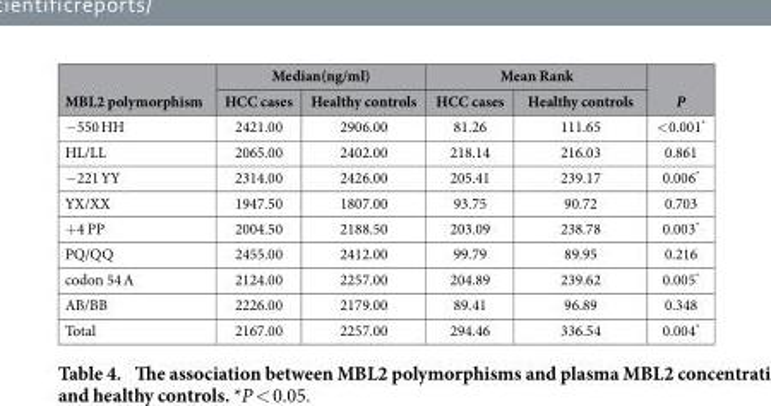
<table><thead><tr><td rowspan="2">MBL2 polymorphism</td><td colspan="2">Median(ng/ml)</td><td colspan="2">Mean Rank</td><td rowspan="2">P</td></tr><tr><td>HCC cases</td><td>Healthy controls</td><td>HCC cases</td><td>Healthy controls</td></tr></thead><tbody><tr><td>− 550 HH</td><td>2421.00</td><td>2906.00</td><td>81.26</td><td>111.65</td><td>&lt; 0.001*</td></tr><tr><td>HL/LL</td><td>2065.00</td><td>2402.00</td><td>218.14</td><td>216.03</td><td>0.861</td></tr><tr><td>− 221 YY</td><td>2314.00</td><td>2426.00</td><td>205.41</td><td>239.17</td><td>0.006*</td></tr><tr><td>YX/XX</td><td>1947.50</td><td>1807.00</td><td>93.75</td><td>90.72</td><td>0.703</td></tr><tr><td>+ 4 PP</td><td>2004.50</td><td>2188.50</td><td>203.09</td><td>238.78</td><td>0.003*</td></tr><tr><td>PQ/QQ</td><td>2455.00</td><td>2412.00</td><td>99.79</td><td>89.95</td><td>0.216</td></tr><tr><td>codon 54 A</td><td>2124.00</td><td>2257.00</td><td>204.89</td><td>239.62</td><td>0.005*</td></tr><tr><td>AB/BB</td><td>2226.00</td><td>2179.00</td><td>89.41</td><td>96.89</td><td>0.348</td></tr><tr><td>Total</td><td>2167.00</td><td>2257.00</td><td>294.46</td><td>336.54</td><td>0.004*</td></tr></tbody></table>